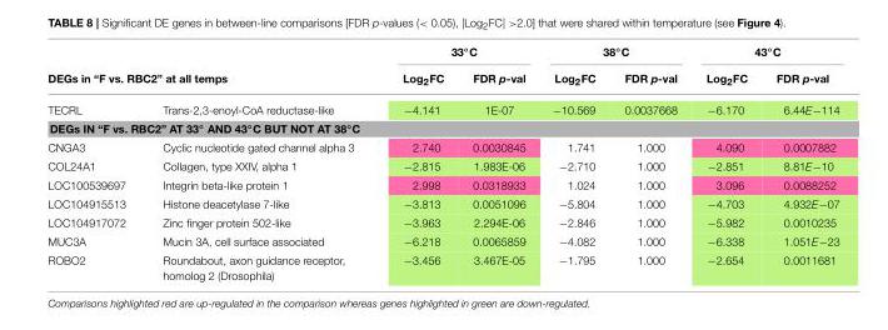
<table><thead><tr><td></td><td></td><td colspan="2">33◦C</td><td colspan="2">38◦C</td><td colspan="2">43◦C</td></tr><tr><td colspan="2">DEGs in “F vs. RBC2” at all temps</td><td>Log<sub>2</sub>FC</td><td>FDR p-val</td><td>Log<sub>2</sub>FC</td><td>FDR p-val</td><td>Log<sub>2</sub>FC</td><td>FDR p-val</td></tr></thead><tbody><tr><td>TECRL</td><td>Trans-2,3-enoyl-CoA reductase-like</td><td>−4.141</td><td>1E-07</td><td>−10.569</td><td>0.0037668</td><td>−6.170</td><td>6.44E−114</td></tr><tr><td colspan="8">DEGs IN “F vs. RBC2” AT 33◦ AND 43◦C BUT NOT AT 38◦C</td></tr><tr><td>CNGA3</td><td>Cyclic nucleotide gated channel alpha 3</td><td>2.740</td><td>0.0030845</td><td>1.741</td><td>1.000</td><td>4.090</td><td>0.0007882</td></tr><tr><td>COL24A1</td><td>Collagen, type XXIV, alpha 1</td><td>−2.815</td><td>1.983E-06</td><td>−2.710</td><td>1.000</td><td>−2.851</td><td>8.81E−10</td></tr><tr><td>LOC100539697</td><td>Integrin beta-like protein 1</td><td>2.998</td><td>0.0318933</td><td>1.024</td><td>1.000</td><td>3.096</td><td>0.0088252</td></tr><tr><td>LOC104915513</td><td>Histone deacetylase 7-like</td><td>−3.813</td><td>0.0051096</td><td>−5.804</td><td>1.000</td><td>−4.703</td><td>4.932E−07</td></tr><tr><td>LOC104917072</td><td>Zinc finger protein 502-like</td><td>−3.963</td><td>2.294E-06</td><td>−2.846</td><td>1.000</td><td>−5.982</td><td>0.0010235</td></tr><tr><td>MUC3A</td><td>Mucin 3A, cell surface associated</td><td>−6.218</td><td>0.0065859</td><td>−4.082</td><td>1.000</td><td>−6.338</td><td>1.051E−23</td></tr><tr><td>ROBO2</td><td>Roundabout, axon guidance receptor, homolog 2 (Drosophila)</td><td>−3.456</td><td>3.467E-05</td><td>−1.795</td><td>1.000</td><td>−2.654</td><td>0.0011681</td></tr></tbody></table>